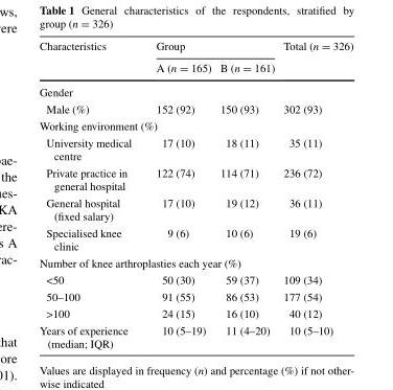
<table><thead><tr><td rowspan="2">Characteristics</td><td colspan="2">Group</td><td rowspan="2">Total (n = 326)</td></tr><tr><td>A (n = 165)</td><td>B (n = 161)</td></tr></thead><tbody><tr><td colspan="4">Gender</td></tr><tr><td>Male (%)</td><td>152 (92)</td><td>150 (93)</td><td>302 (93)</td></tr><tr><td colspan="4">Working environment (%)</td></tr><tr><td>University medical centre</td><td>17 (10)</td><td>18 (11)</td><td>35 (11)</td></tr><tr><td>Private practice in general hospital</td><td>122 (74)</td><td>114 (71)</td><td>236 (72)</td></tr><tr><td>General hospital (fixed salary)</td><td>17 (10)</td><td>19 (12)</td><td>36 (11)</td></tr><tr><td>Specialised knee clinic</td><td>9 (6)</td><td>10 (6)</td><td>19 (6)</td></tr><tr><td colspan="4">Number of knee arthroplasties each year (%)</td></tr><tr><td>&lt;50</td><td>50 (30)</td><td>59 (37)</td><td>109 (34)</td></tr><tr><td>50–100</td><td>91 (55)</td><td>86 (53)</td><td>177 (54)</td></tr><tr><td>&gt;100</td><td>24 (15)</td><td>16 (10)</td><td>40 (12)</td></tr><tr><td>Years of experience (median; IQR)</td><td>10 (5–19)</td><td>11 (4–20)</td><td>10 (5–10)</td></tr></tbody></table>